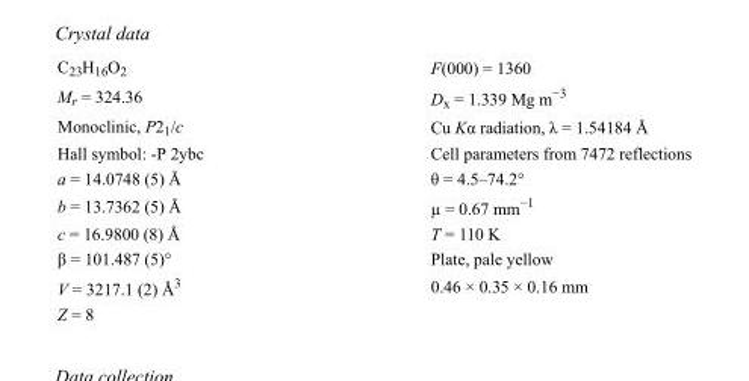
<table><tbody><tr><td>C<sub>23</sub>H<sub>16</sub>O<sub>2</sub></td><td>F(000) = 1360</td></tr><tr><td>M<sub>r</sub> = 324.36</td><td>D<sub>x</sub> = 1.339 Mg m<sup>−3</sup></td></tr><tr><td>Monoclinic, P2<sub>1</sub>/c</td><td>Cu Kα radiation, λ = 1.54184 Å</td></tr><tr><td>Hall symbol: -P 2ybc</td><td>Cell parameters from 7472 reflections</td></tr><tr><td>a = 14.0748 (5) Å</td><td>θ = 4.5–74.2°</td></tr><tr><td>b = 13.7362 (5) Å</td><td>µ = 0.67 mm<sup>−1</sup></td></tr><tr><td>c = 16.9800 (8) Å</td><td>T = 110 K</td></tr><tr><td>β = 101.487 (5)°</td><td>Plate, pale yellow</td></tr><tr><td>V = 3217.1 (2) Å<sup>3</sup></td><td>0.46 × 0.35 × 0.16 mm</td></tr><tr><td>Z = 8</td><td></td></tr></tbody></table>